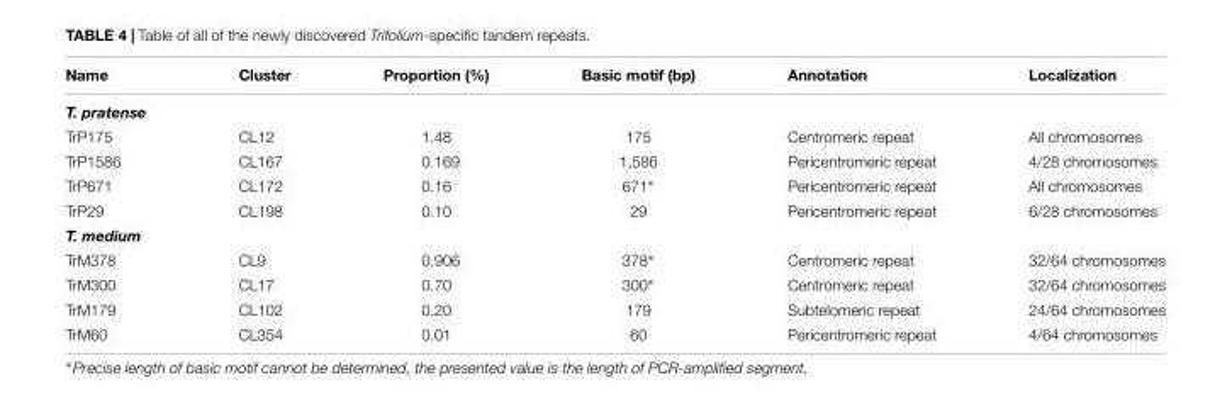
<table><thead><tr><td>Name</td><td>Cluster</td><td>Proportion (%)</td><td>Basic motif (bp)</td><td>Annotation</td><td>Localization</td></tr></thead><tbody><tr><td colspan="6">T. pratense</td></tr><tr><td>TrP175</td><td>CL12</td><td>1.48</td><td>175</td><td>Centromeric repeat</td><td>All chromosomes</td></tr><tr><td>TrP1586</td><td>CL167</td><td>0.169</td><td>1,586</td><td>Pericentromeric repeat</td><td>4/28 chromosomes</td></tr><tr><td>TrP671</td><td>CL172</td><td>0.16</td><td>671∗</td><td>Pericentromeric repeat</td><td>All chromosomes</td></tr><tr><td>TrP29</td><td>CL198</td><td>0.10</td><td>29</td><td>Pericentromeric repeat</td><td>6/28 chromosomes</td></tr><tr><td colspan="6">T. medium</td></tr><tr><td>TrM378</td><td>CL9</td><td>0.906</td><td>378∗</td><td>Centromeric repeat</td><td>32/64 chromosomes</td></tr><tr><td>TrM300</td><td>CL17</td><td>0.70</td><td>300∗</td><td>Centromeric repeat</td><td>32/64 chromosomes</td></tr><tr><td>TrM179</td><td>CL102</td><td>0.20</td><td>179</td><td>Subtelomeric repeat</td><td>24/64 chromosomes</td></tr><tr><td>TrM60</td><td>CL354</td><td>0.01</td><td>60</td><td>Pericentromeric repeat</td><td>4/64 chromosomes</td></tr></tbody></table>